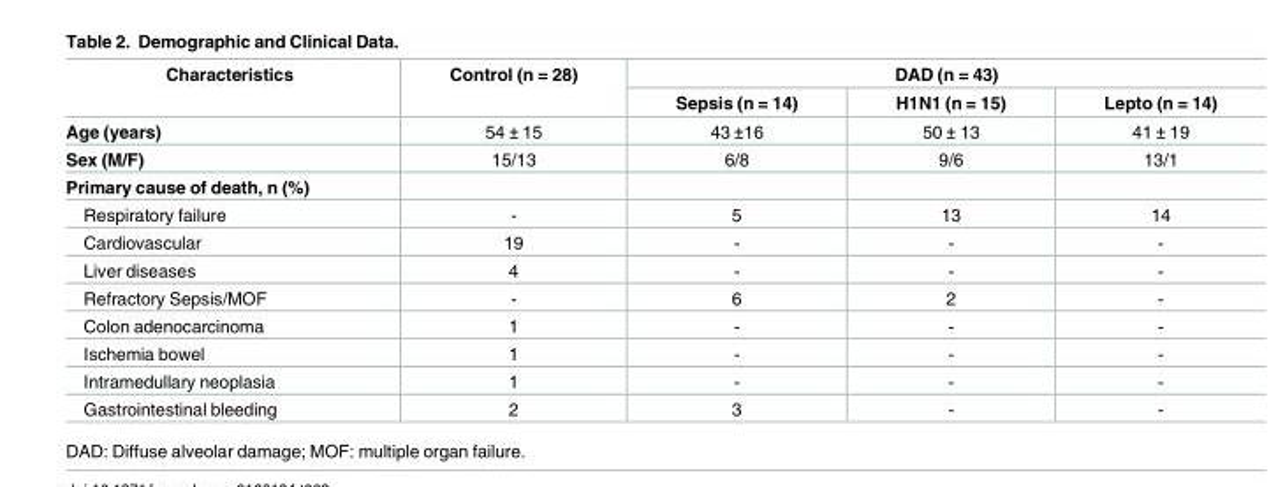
<table><thead><tr><td rowspan="2">Characteristics</td><td rowspan="2">Control (n = 28)</td><td colspan="3">DAD (n = 43)</td></tr><tr><td>Sepsis (n = 14)</td><td>H1N1 (n = 15)</td><td>Lepto (n = 14)</td></tr></thead><tbody><tr><td>Age (years)</td><td>54 ± 15</td><td>43 ±16</td><td>50 ± 13</td><td>41 ± 19</td></tr><tr><td>Sex (M/F)</td><td>15/13</td><td>6/8</td><td>9/6</td><td>13/1</td></tr><tr><td colspan="5">Primary cause of death, n (%)</td></tr><tr><td>Respiratory failure</td><td>-</td><td>5</td><td>13</td><td>14</td></tr><tr><td>Cardiovascular</td><td>19</td><td>-</td><td>-</td><td>-</td></tr><tr><td>Liver diseases</td><td>4</td><td>-</td><td>-</td><td>-</td></tr><tr><td>Refractory Sepsis/MOF</td><td>-</td><td>6</td><td>2</td><td>-</td></tr><tr><td>Colon adenocarcinoma</td><td>1</td><td>-</td><td>-</td><td>-</td></tr><tr><td>Ischemia bowel</td><td>1</td><td>-</td><td>-</td><td>-</td></tr><tr><td>Intramedullary neoplasia</td><td>1</td><td>-</td><td>-</td><td>-</td></tr><tr><td>Gastrointestinal bleeding</td><td>2</td><td>3</td><td>-</td><td>-</td></tr></tbody></table>